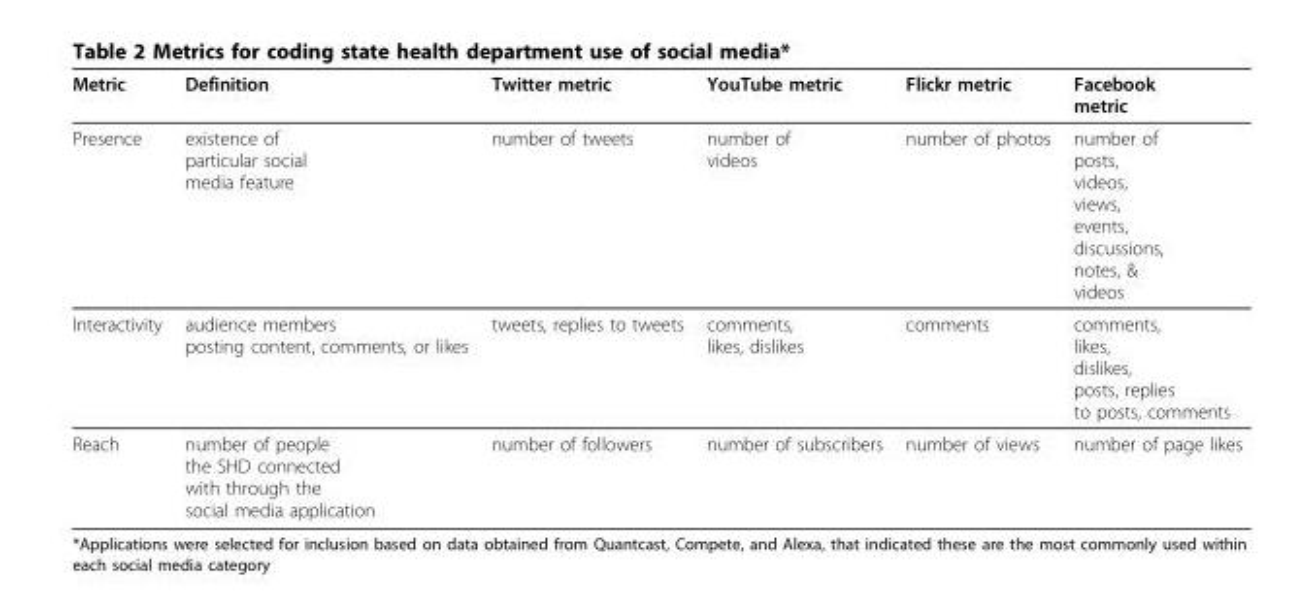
<table><thead><tr><td>Metric</td><td>Definition</td><td>Twitter metric</td><td>YouTube metric</td><td>Flickr metric</td><td>Facebook metric</td></tr></thead><tbody><tr><td>Presence</td><td>existence of particular social media feature</td><td>number of tweets</td><td>number of videos</td><td>number of photos</td><td>number of posts, videos, views, events, discussions, notes, &amp; videos</td></tr><tr><td>Interactivity</td><td>audience members posting content, comments, or likes</td><td>tweets, replies to tweets</td><td>comments, likes, dislikes</td><td>comments</td><td>comments, likes, dislikes, posts, replies to posts, comments</td></tr><tr><td>Reach</td><td>number of people the SHD connected with through the social media application</td><td>number of followers</td><td>number of subscribers</td><td>number of views</td><td>number of page likes</td></tr></tbody></table>